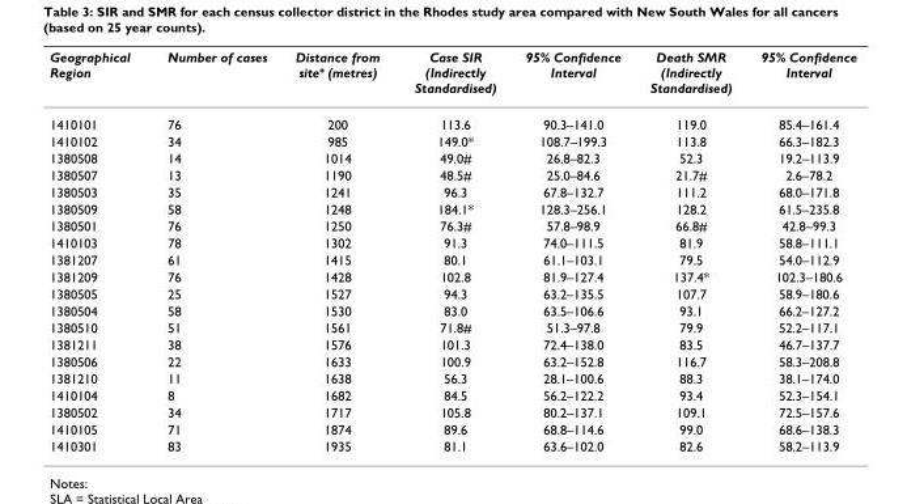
<table><thead><tr><td>Geographical Region</td><td>Number of cases</td><td>Distance from site<sup>+</sup> (metres)</td><td>Case SIR (Indirectly Standardised)</td><td>95% Confidence Interval</td><td>Death SMR (Indirectly Standardised)</td><td>95% Confidence Interval</td></tr></thead><tbody><tr><td>1410101</td><td>76</td><td>200</td><td>113.6</td><td>90.3–141.0</td><td>119.0</td><td>85.4–161.4</td></tr><tr><td>1410102</td><td>34</td><td>985</td><td>149.0*</td><td>108.7–199.3</td><td>113.8</td><td>66.3–182.3</td></tr><tr><td>1380508</td><td>14</td><td>1014</td><td>49.0#</td><td>26.8–82.3</td><td>52.3</td><td>19.2–113.9</td></tr><tr><td>1380507</td><td>13</td><td>1190</td><td>48.5#</td><td>25.0–84.6</td><td>21.7#</td><td>2.6–78.2</td></tr><tr><td>1380503</td><td>35</td><td>1241</td><td>96.3</td><td>67.8–132.7</td><td>111.2</td><td>68.0–171.8</td></tr><tr><td>1380509</td><td>58</td><td>1248</td><td>184.1*</td><td>128.3–256.1</td><td>128.2</td><td>61.5–235.8</td></tr><tr><td>1380501</td><td>76</td><td>1250</td><td>76.3#</td><td>57.8–98.9</td><td>66.8#</td><td>42.8–99.3</td></tr><tr><td>1410103</td><td>78</td><td>1302</td><td>91.3</td><td>74.0–111.5</td><td>81.9</td><td>58.8–111.1</td></tr><tr><td>1381207</td><td>61</td><td>1415</td><td>80.1</td><td>61.1–103.1</td><td>79.5</td><td>54.0–112.9</td></tr><tr><td>1381209</td><td>76</td><td>1428</td><td>102.8</td><td>81.9–127.4</td><td>137.4*</td><td>102.3–180.6</td></tr><tr><td>1380505</td><td>25</td><td>1527</td><td>94.3</td><td>63.2–135.5</td><td>107.7</td><td>58.9–180.6</td></tr><tr><td>1380504</td><td>58</td><td>1530</td><td>83.0</td><td>63.5–106.6</td><td>93.1</td><td>66.2–127.2</td></tr><tr><td>1380510</td><td>51</td><td>1561</td><td>71.8#</td><td>51.3–97.8</td><td>79.9</td><td>52.2–117.1</td></tr><tr><td>1381211</td><td>38</td><td>1576</td><td>101.3</td><td>72.4–138.0</td><td>83.5</td><td>46.7–137.7</td></tr><tr><td>1380506</td><td>22</td><td>1633</td><td>100.9</td><td>63.2–152.8</td><td>116.7</td><td>58.3–208.8</td></tr><tr><td>1381210</td><td>11</td><td>1638</td><td>56.3</td><td>28.1–100.6</td><td>88.3</td><td>38.1–174.0</td></tr><tr><td>1410104</td><td>8</td><td>1682</td><td>84.5</td><td>56.2–122.2</td><td>93.4</td><td>52.3–154.1</td></tr><tr><td>1380502</td><td>34</td><td>1717</td><td>105.8</td><td>80.2–137.1</td><td>109.1</td><td>72.5–157.6</td></tr><tr><td>1410105</td><td>71</td><td>1874</td><td>89.6</td><td>68.8–114.6</td><td>99.0</td><td>68.6–138.3</td></tr><tr><td>1410301</td><td>83</td><td>1935</td><td>81.1</td><td>63.6–102.0</td><td>82.6</td><td>58.2–113.9</td></tr></tbody></table>